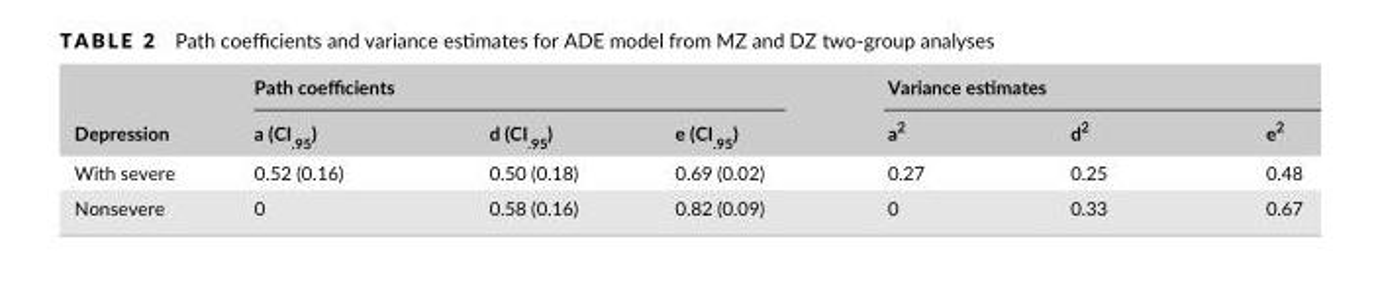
<table><thead><tr><td rowspan="2">Depression</td><td colspan="3">Path coefficients</td><td colspan="3">Variance estimates</td></tr><tr><td>a (CI<sub>.95</sub>)</td><td>d (CI<sub>.95</sub>)</td><td>e (CI<sub>.95</sub>)</td><td>a<sup>2</sup></td><td>d<sup>2</sup></td><td>e<sup>2</sup></td></tr></thead><tbody><tr><td>With severe</td><td>0.52 (0.16)</td><td>0.50 (0.18)</td><td>0.69 (0.02)</td><td>0.27</td><td>0.25</td><td>0.48</td></tr><tr><td>Nonsevere</td><td>0</td><td>0.58 (0.16)</td><td>0.82 (0.09)</td><td>0</td><td>0.33</td><td>0.67</td></tr></tbody></table>